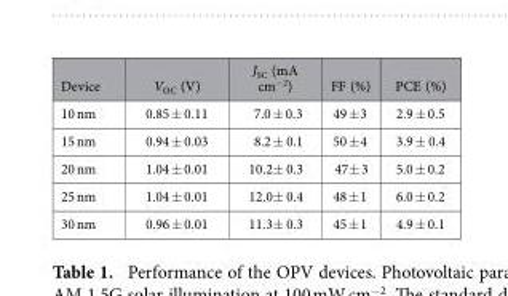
<table><thead><tr><td>Device</td><td>V<sub>OC</sub> (V)</td><td>J<sub>SC</sub> (mA cm<sup>−2</sup>)</td><td>FF (%)</td><td>PCE (%)</td></tr></thead><tbody><tr><td>10 nm</td><td>0.85 ± 0.11</td><td>7.0 ± 0.3</td><td>49 ± 3</td><td>2.9 ± 0.5</td></tr><tr><td>15 nm</td><td>0.94 ± 0.03</td><td>8.2 ± 0.1</td><td>50 ± 4</td><td>3.9 ± 0.4</td></tr><tr><td>20 nm</td><td>1.04 ± 0.01</td><td>10.2± 0.3</td><td>47± 3</td><td>5.0 ± 0.2</td></tr><tr><td>25 nm</td><td>1.04 ± 0.01</td><td>12.0± 0.4</td><td>48 ± 1</td><td>6.0 ± 0.2</td></tr><tr><td>30 nm</td><td>0.96 ± 0.01</td><td>11.3± 0.3</td><td>45 ± 1</td><td>4.9 ± 0.1</td></tr></tbody></table>